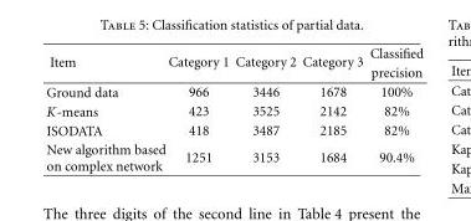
<table><thead><tr><td rowspan="2">Item</td><td rowspan="2">Category 1</td><td rowspan="2">Category 2</td><td rowspan="2">Category 3</td><td rowspan="2">Classified precision</td></tr><tr></tr></thead><tbody><tr><td>Ground data</td><td>966</td><td>3446</td><td>1678</td><td>100%</td></tr><tr><td>K-means</td><td>423</td><td>3525</td><td>2142</td><td>82%</td></tr><tr><td>ISODATA</td><td>418</td><td>3487</td><td>2185</td><td>82%</td></tr><tr><td>New algorithm based on complex network</td><td>1251</td><td>3153</td><td>1684</td><td>90.4%</td></tr></tbody></table>